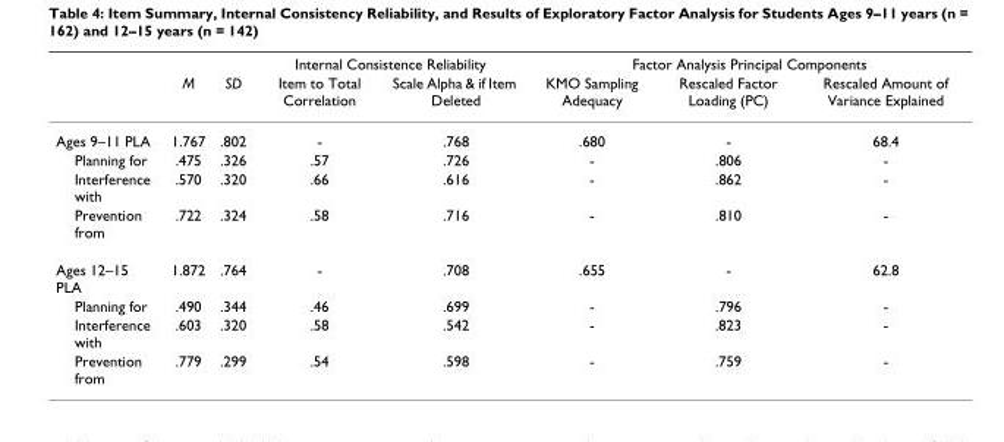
<table><thead><tr><td rowspan="2"></td><td rowspan="2">M</td><td rowspan="2">SD</td><td colspan="2">Internal Consistence Reliability</td><td colspan="3">Factor Analysis Principal Components</td></tr><tr><td>Item to Total Correlation</td><td>Scale Alpha &amp; if Item Deleted</td><td>KMO Sampling Adequacy</td><td>Rescaled Factor Loading (PC)</td><td>Rescaled Amount of Variance Explained</td></tr></thead><tbody><tr><td>Ages 9–11 PLA</td><td>1.767</td><td>.802</td><td>-</td><td>.768</td><td>.680</td><td>-</td><td>68.4</td></tr><tr><td>Planning for</td><td>.475</td><td>.326</td><td>.57</td><td>.726</td><td>-</td><td>.806</td><td>-</td></tr><tr><td>Interference with</td><td>.570</td><td>.320</td><td>.66</td><td>.616</td><td>-</td><td>.862</td><td>-</td></tr><tr><td>Prevention from</td><td>.722</td><td>.324</td><td>.58</td><td>.716</td><td>-</td><td>.810</td><td>-</td></tr><tr><td>Ages 12–15 PLA</td><td>1.872</td><td>.764</td><td>-</td><td>.708</td><td>.655</td><td>-</td><td>62.8</td></tr><tr><td>Planning for</td><td>.490</td><td>.344</td><td>.46</td><td>.699</td><td>-</td><td>.796</td><td>-</td></tr><tr><td>Interference with</td><td>.603</td><td>.320</td><td>.58</td><td>.542</td><td>-</td><td>.823</td><td>-</td></tr><tr><td>Prevention from</td><td>.779</td><td>.299</td><td>.54</td><td>.598</td><td>-</td><td>.759</td><td>-</td></tr></tbody></table>